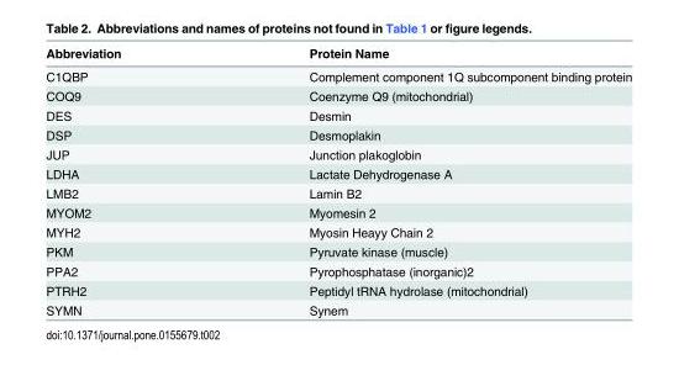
<table><thead><tr><td>Abbreviation</td><td>Protein Name</td></tr></thead><tbody><tr><td>C1QBP</td><td>Complement component 1Q subcomponent binding protein</td></tr><tr><td>COQ9</td><td>Coenzyme Q9 (mitochondrial)</td></tr><tr><td>DES</td><td>Desmin</td></tr><tr><td>DSP</td><td>Desmoplakin</td></tr><tr><td>JUP</td><td>Junction plakoglobin</td></tr><tr><td>LDHA</td><td>Lactate Dehydrogenase A</td></tr><tr><td>LMB2</td><td>Lamin B2</td></tr><tr><td>MYOM2</td><td>Myomesin 2</td></tr><tr><td>MYH2</td><td>Myosin Heayy Chain 2</td></tr><tr><td>PKM</td><td>Pyruvate kinase (muscle)</td></tr><tr><td>PPA2</td><td>Pyrophosphatase (inorganic)2</td></tr><tr><td>PTRH2</td><td>Peptidyl tRNA hydrolase (mitochondrial)</td></tr><tr><td>SYMN</td><td>Synem</td></tr></tbody></table>